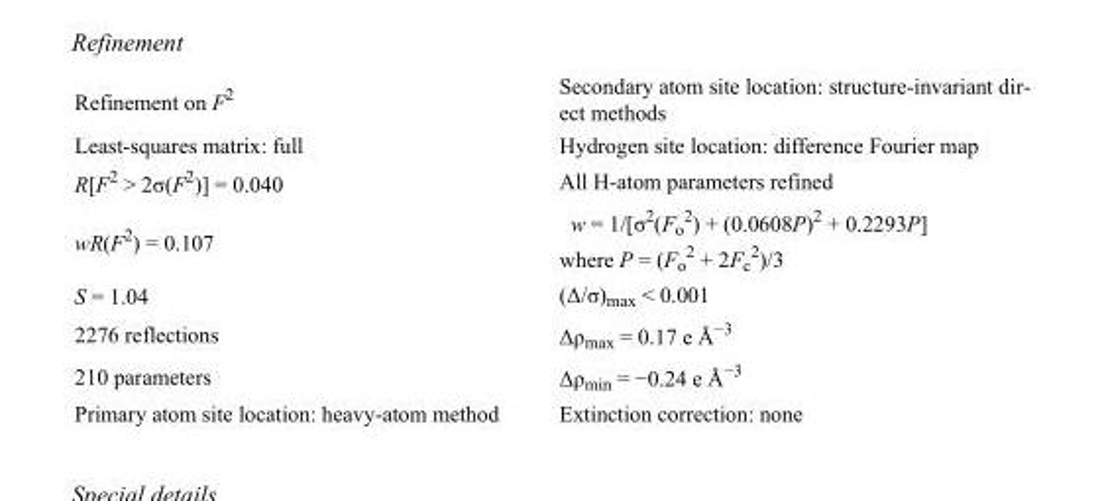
<table><tbody><tr><td>Refinement on F<sup>2</sup></td><td>Secondary atom site location: structure-invariant dir- ect methods</td></tr><tr><td>Least-squares matrix: full</td><td>Hydrogen site location: difference Fourier map</td></tr><tr><td>R[F<sup>2</sup> &gt; 2σ(F<sup>2</sup>)] = 0.040</td><td>All H-atom parameters refined</td></tr><tr><td>wR(F<sup>2</sup>) = 0.107</td><td>w = 1/[σ<sup>2</sup>(F<sub>o</sub> <sup>2</sup>) + (0.0608P)<sup>2</sup> + 0.2293P] where P = (F<sub>o</sub> <sup>2</sup> + 2F<sub>c</sub> <sup>2</sup>)/3</td></tr><tr><td>S = 1.04</td><td>(Δ/σ)<sub>max</sub> &lt; 0.001</td></tr><tr><td>2276 reflections</td><td>Δρ<sub>max</sub> = 0.17 e Å<sup>−3</sup></td></tr><tr><td>210 parameters</td><td>Δρ<sub>min</sub> = −0.24 e Å<sup>−3</sup></td></tr><tr><td>Primary atom site location: heavy-atom method</td><td>Extinction correction: none</td></tr></tbody></table>